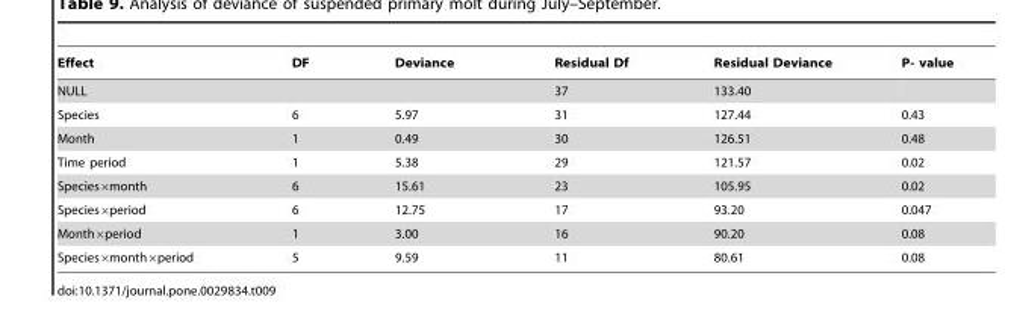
<table><thead><tr><td>Effect</td><td>DF</td><td>Deviance</td><td>Residual Df</td><td>Residual Deviance</td><td>P- value</td></tr></thead><tbody><tr><td>NULL</td><td></td><td></td><td>37</td><td>133.40</td><td></td></tr><tr><td>Species</td><td>6</td><td>5.97</td><td>31</td><td>127.44</td><td>0.43</td></tr><tr><td>Month</td><td>1</td><td>0.49</td><td>30</td><td>126.51</td><td>0.48</td></tr><tr><td>Time period</td><td>1</td><td>5.38</td><td>29</td><td>121.57</td><td>0.02</td></tr><tr><td>Species×month</td><td>6</td><td>15.61</td><td>23</td><td>105.95</td><td>0.02</td></tr><tr><td>Species×period</td><td>6</td><td>12.75</td><td>17</td><td>93.20</td><td>0.047</td></tr><tr><td>Month×period</td><td>1</td><td>3.00</td><td>16</td><td>90.20</td><td>0.08</td></tr><tr><td>Species×month×period</td><td>5</td><td>9.59</td><td>11</td><td>80.61</td><td>0.08</td></tr></tbody></table>